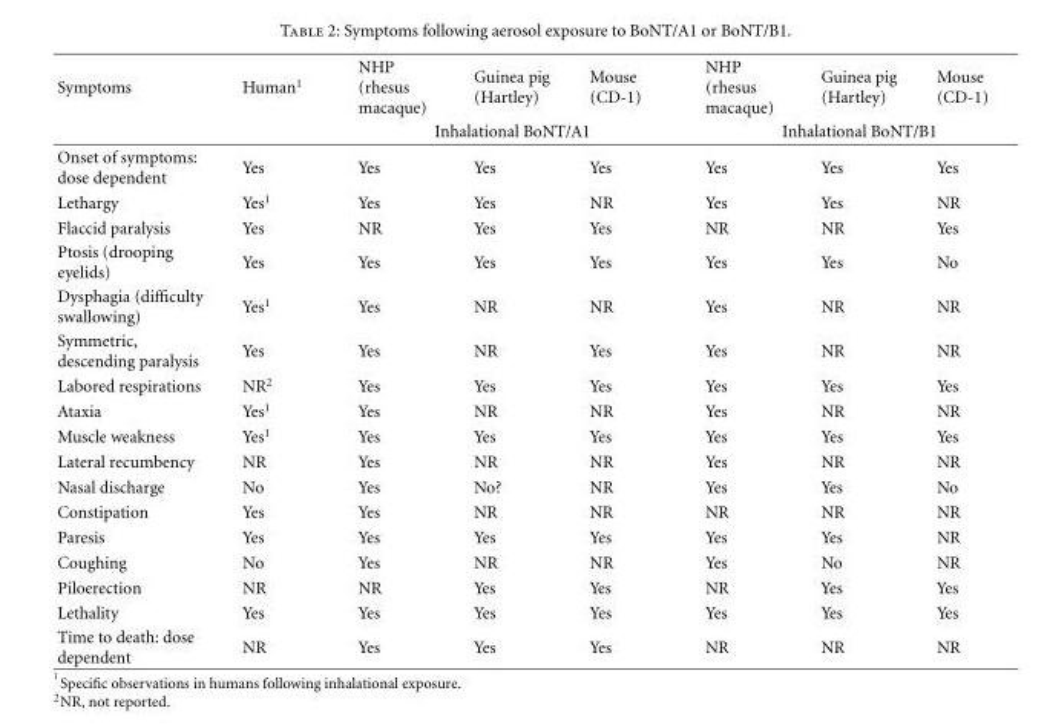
<table><thead><tr><td rowspan="2">Symptoms</td><td rowspan="2">Human<sup>1</sup></td><td>NHP (rhesus macaque)</td><td>Guinea pig (Hartley)</td><td>Mouse (CD-1)</td><td>NHP (rhesus macaque)</td><td>Guinea pig (Hartley)</td><td>Mouse (CD-1)</td></tr><tr><td colspan="3">Inhalational BoNT/A1</td><td colspan="3">Inhalational BoNT/B1</td></tr></thead><tbody><tr><td>Onset of symptoms: dose dependent</td><td>Yes</td><td>Yes</td><td>Yes</td><td>Yes</td><td>Yes</td><td>Yes</td><td>Yes</td></tr><tr><td>Lethargy</td><td>Yes<sup>1</sup></td><td>Yes</td><td>Yes</td><td>NR</td><td>Yes</td><td>Yes</td><td>NR</td></tr><tr><td>Flaccid paralysis</td><td>Yes</td><td>NR</td><td>Yes</td><td>Yes</td><td>NR</td><td>NR</td><td>Yes</td></tr><tr><td>Ptosis (drooping eyelids)</td><td>Yes</td><td>Yes</td><td>Yes</td><td>Yes</td><td>Yes</td><td>Yes</td><td>No</td></tr><tr><td>Dysphagia (difficulty swallowing)</td><td>Yes<sup>1</sup></td><td>Yes</td><td>NR</td><td>NR</td><td>Yes</td><td>NR</td><td>NR</td></tr><tr><td>Symmetric, descending paralysis</td><td>Yes</td><td>Yes</td><td>NR</td><td>Yes</td><td>Yes</td><td>NR</td><td>NR</td></tr><tr><td>Labored respirations</td><td>NR<sup>2</sup></td><td>Yes</td><td>Yes</td><td>Yes</td><td>Yes</td><td>Yes</td><td>Yes</td></tr><tr><td>Ataxia</td><td>Yes<sup>1</sup></td><td>Yes</td><td>NR</td><td>NR</td><td>Yes</td><td>NR</td><td>NR</td></tr><tr><td>Muscle weakness</td><td>Yes<sup>1</sup></td><td>Yes</td><td>Yes</td><td>Yes</td><td>Yes</td><td>Yes</td><td>Yes</td></tr><tr><td>Lateral recumbency</td><td>NR</td><td>Yes</td><td>NR</td><td>NR</td><td>Yes</td><td>NR</td><td>NR</td></tr><tr><td>Nasal discharge</td><td>No</td><td>Yes</td><td>No?</td><td>NR</td><td>Yes</td><td>Yes</td><td>No</td></tr><tr><td>Constipation</td><td>Yes</td><td>Yes</td><td>NR</td><td>NR</td><td>NR</td><td>NR</td><td>NR</td></tr><tr><td>Paresis</td><td>Yes</td><td>Yes</td><td>Yes</td><td>Yes</td><td>Yes</td><td>Yes</td><td>NR</td></tr><tr><td>Coughing</td><td>No</td><td>Yes</td><td>NR</td><td>NR</td><td>Yes</td><td>No</td><td>NR</td></tr><tr><td>Piloerection</td><td>NR</td><td>NR</td><td>Yes</td><td>Yes</td><td>NR</td><td>Yes</td><td>Yes</td></tr><tr><td>Lethality</td><td>Yes</td><td>Yes</td><td>Yes</td><td>Yes</td><td>Yes</td><td>Yes</td><td>Yes</td></tr><tr><td>Time to death: dose dependent</td><td>NR</td><td>Yes</td><td>Yes</td><td>Yes</td><td>NR</td><td>NR</td><td>NR</td></tr></tbody></table>